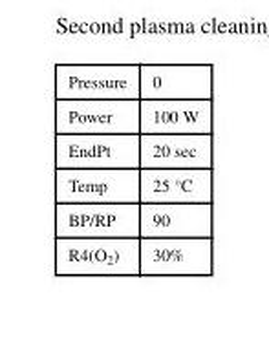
<table><tbody><tr><td>Pressure</td><td>0</td></tr><tr><td>Power</td><td>100 W</td></tr><tr><td>EndPt</td><td>20 sec</td></tr><tr><td>Temp</td><td>25 °C</td></tr><tr><td>BP/RP</td><td>90</td></tr><tr><td>R4(O<sub>2</sub>)</td><td>30%</td></tr></tbody></table>